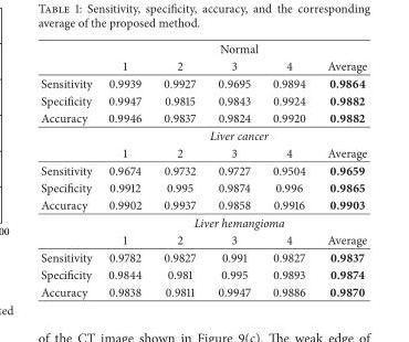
<table><thead><tr><td rowspan="2"></td><td colspan="5">Normal</td></tr><tr><td>1</td><td>2</td><td>3</td><td>4</td><td>Average</td></tr></thead><tbody><tr><td>Sensitivity</td><td>0.9939</td><td>0.9927</td><td>0.9695</td><td>0.9894</td><td>0.9864</td></tr><tr><td>Specificity</td><td>0.9947</td><td>0.9815</td><td>0.9843</td><td>0.9924</td><td>0.9882</td></tr><tr><td rowspan="3">Accuracy</td><td>0.9946</td><td>0.9837</td><td>0.9824</td><td>0.9920</td><td>0.9882</td></tr><tr><td colspan="5">Liver cancer</td></tr><tr><td>1</td><td>2</td><td>3</td><td>4</td><td>Average</td></tr><tr><td>Sensitivity</td><td>0.9674</td><td>0.9732</td><td>0.9727</td><td>0.9504</td><td>0.9659</td></tr><tr><td>Specificity</td><td>0.9912</td><td>0.995</td><td>0.9874</td><td>0.996</td><td>0.9865</td></tr><tr><td rowspan="3">Accuracy</td><td>0.9902</td><td>0.9937</td><td>0.9858</td><td>0.9916</td><td>0.9903</td></tr><tr><td colspan="5">Liver hemangioma</td></tr><tr><td>1</td><td>2</td><td>3</td><td>4</td><td>Average</td></tr><tr><td>Sensitivity</td><td>0.9782</td><td>0.9827</td><td>0.991</td><td>0.9827</td><td>0.9837</td></tr><tr><td>Specificity</td><td>0.9844</td><td>0.981</td><td>0.995</td><td>0.9893</td><td>0.9874</td></tr><tr><td>Accuracy</td><td>0.9838</td><td>0.9811</td><td>0.9947</td><td>0.9886</td><td>0.9870</td></tr></tbody></table>